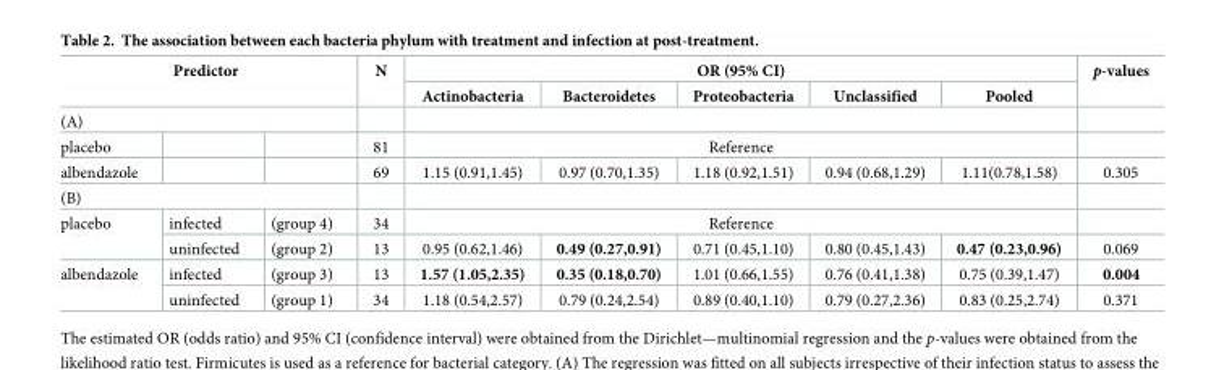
<table><thead><tr><td rowspan="3" colspan="3">Predictor (A)</td><td rowspan="4">N 81</td><td colspan="5">OR (95% CI)</td><td rowspan="4">p-values</td></tr><tr><td>Actinobacteria</td><td>Bacteroidetes</td><td>Proteobacteria</td><td>Unclassified</td><td>Pooled</td></tr><tr><td rowspan="2" colspan="5">Reference</td></tr><tr><td>placebo</td><td></td><td></td></tr></thead><tbody><tr><td>albendazole</td><td></td><td></td><td>69</td><td>1.15 (0.91,1.45)</td><td>0.97 (0.70,1.35)</td><td>1.18 (0.92,1.51)</td><td>0.94 (0.68,1.29)</td><td>1.11(0.78,1.58)</td><td>0.305</td></tr><tr><td colspan="10">(B)</td></tr><tr><td rowspan="2">placebo</td><td>infected</td><td>(group 4)</td><td>34</td><td colspan="5">Reference</td><td></td></tr><tr><td>uninfected</td><td>(group 2)</td><td>13</td><td>0.95 (0.62,1.46)</td><td>0.49 (0.27,0.91)</td><td>0.71 (0.45,1.10)</td><td>0.80 (0.45,1.43)</td><td>0.47 (0.23,0.96)</td><td>0.069</td></tr><tr><td rowspan="2">albendazole</td><td>infected</td><td>(group 3)</td><td>13</td><td>1.57 (1.05,2.35)</td><td>0.35 (0.18,0.70)</td><td>1.01 (0.66,1.55)</td><td>0.76 (0.41,1.38)</td><td>0.75 (0.39,1.47)</td><td>0.004</td></tr><tr><td>uninfected</td><td>(group 1)</td><td>34</td><td>1.18 (0.54,2.57)</td><td>0.79 (0.24,2.54)</td><td>0.89 (0.40,1.10)</td><td>0.79 (0.27,2.36)</td><td>0.83 (0.25,2.74)</td><td>0.371</td></tr></tbody></table>